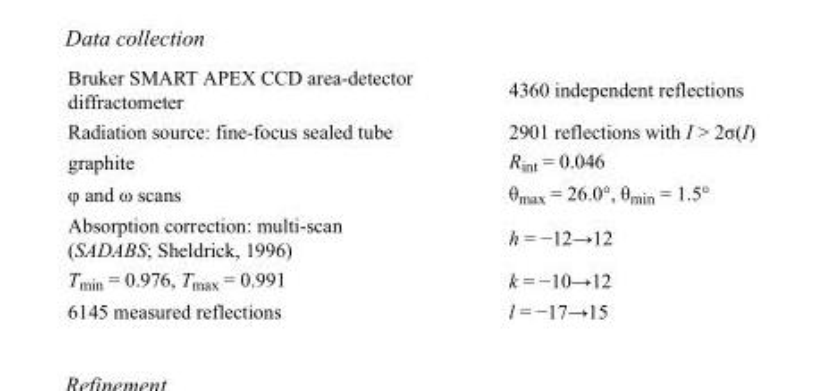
<table><tbody><tr><td>Bruker SMART APEX CCD area-detector diffractometer</td><td>4360 independent reflections</td></tr><tr><td>Radiation source: fine-focus sealed tube</td><td>2901 reflections with I &gt; 2σ(I)</td></tr><tr><td>graphite</td><td>R<sub>int</sub> = 0.046</td></tr><tr><td>φ and ω scans</td><td>θ<sub>max</sub> = 26.0°, θ<sub>min</sub> = 1.5°</td></tr><tr><td>Absorption correction: multi-scan (SADABS; Sheldrick, 1996)</td><td>h = −12→12</td></tr><tr><td>T<sub>min</sub> = 0.976, T<sub>max</sub> = 0.991</td><td>k = −10→12</td></tr><tr><td>6145 measured reflections</td><td>l = −17→15</td></tr></tbody></table>